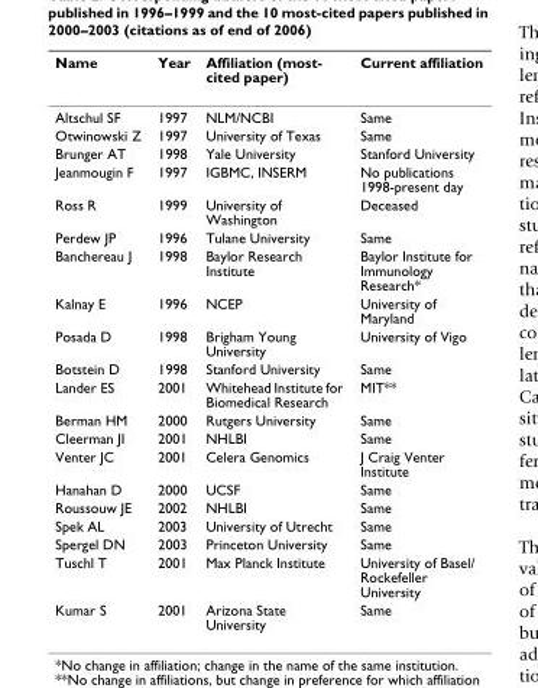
<table><thead><tr><td>Name</td><td>Year</td><td>Affiliation (most- cited paper)</td><td>Current affiliation</td></tr></thead><tbody><tr><td>Altschul SF</td><td>1997</td><td>NLM/NCBI</td><td>Same</td></tr><tr><td>Otwinowski Z</td><td>1997</td><td>University of Texas</td><td>Same</td></tr><tr><td>Brunger AT</td><td>1998</td><td>Yale University</td><td>Stanford University</td></tr><tr><td>Jeanmougin F</td><td>1997</td><td>IGBMC, INSERM</td><td>No publications 1998-present day</td></tr><tr><td>Ross R</td><td>1999</td><td>University of Washington</td><td>Deceased</td></tr><tr><td>Perdew JP</td><td>1996</td><td>Tulane University</td><td>Same</td></tr><tr><td>Banchereau J</td><td>1998</td><td>Baylor Research Institute</td><td>Baylor Institute for Immunology Research*</td></tr><tr><td>Kalnay E</td><td>1996</td><td>NCEP</td><td>University of Maryland</td></tr><tr><td>Posada D</td><td>1998</td><td>Brigham Young University</td><td>University of Vigo</td></tr><tr><td>Botstein D</td><td>1998</td><td>Stanford University</td><td>Same</td></tr><tr><td>Lander ES</td><td>2001</td><td>Whitehead Institute for Biomedical Research</td><td>MIT**</td></tr><tr><td>Berman HM</td><td>2000</td><td>Rutgers University</td><td>Same</td></tr><tr><td>Cleerman JI</td><td>2001</td><td>NHLBI</td><td>Same</td></tr><tr><td>Venter JC</td><td>2001</td><td>Celera Genomics</td><td>J Craig Venter Institute</td></tr><tr><td>Hanahan D</td><td>2000</td><td>UCSF</td><td>Same</td></tr><tr><td>Roussouw JE</td><td>2002</td><td>NHLBI</td><td>Same</td></tr><tr><td>Spek AL</td><td>2003</td><td>University of Utrecht</td><td>Same</td></tr><tr><td>Spergel DN</td><td>2003</td><td>Princeton University</td><td>Same</td></tr><tr><td>Tuschl T</td><td>2001</td><td>Max Planck Institute</td><td>University of Basel/ Rockefeller University</td></tr><tr><td>Kumar S</td><td>2001</td><td>Arizona State University</td><td>Same</td></tr></tbody></table>